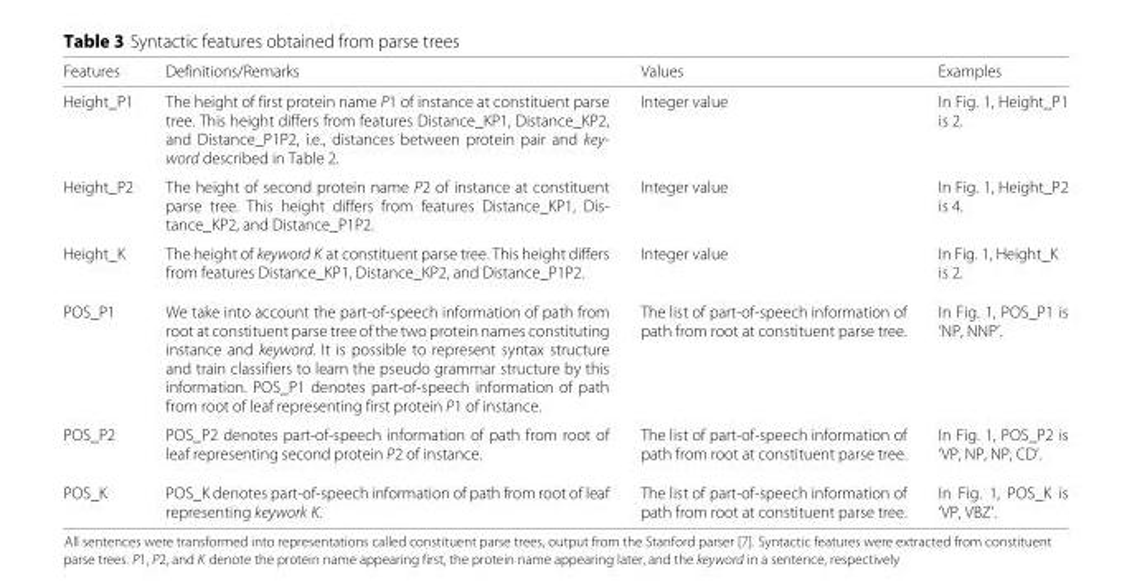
<table><thead><tr><td>Features</td><td>Definitions/Remarks</td><td>Values</td><td>Examples</td></tr></thead><tbody><tr><td>Height_P1</td><td>The height of first protein name P1 of instance at constituent parse tree. This height differs from features Distance_KP1, Distance_KP2, and Distance_P1P2, i.e., distances between protein pair and key- word described in Table 2.</td><td>Integer value</td><td>In Fig. 1, Height_P1 is 2.</td></tr><tr><td>Height_P2</td><td>The height of second protein name P2 of instance at constituent parse tree. This height differs from features Distance_KP1, Dis- tance_KP2, and Distance_P1P2.</td><td>Integer value</td><td>In Fig. 1, Height_P2 is 4.</td></tr><tr><td>Height_K</td><td>The height of keyword K at constituent parse tree. This height differs from features Distance_KP1, Distance_KP2, and Distance_P1P2.</td><td>Integer value</td><td>In Fig. 1, Height_K is 2.</td></tr><tr><td>POS_P1</td><td>We take into account the part-of-speech information of path from root at constituent parse tree of the two protein names constituting instance and keyword. It is possible to represent syntax structure and train classifiers to learn the pseudo grammar structure by this information. POS_P1 denotes part-of-speech information of path from root of leaf representing first protein P1 of instance.</td><td>The list of part-of-speech information of path from root at constituent parse tree.</td><td>In Fig. 1, POS_P1 is ‘NP, NNP’.</td></tr><tr><td>POS_P2</td><td>POS_P2 denotes part-of-speech information of path from root of leaf representing second protein P2 of instance.</td><td>The list of part-of-speech information of path from root at constituent parse tree.</td><td>In Fig. 1, POS_P2 is ‘VP, NP, NP, CD’.</td></tr><tr><td>POS_K</td><td>POS_K denotes part-of-speech information of path from root of leaf representing keywork K.</td><td>The list of part-of-speech information of path from root at constituent parse tree.</td><td>In Fig. 1, POS_K is ‘VP, VBZ’.</td></tr></tbody></table>